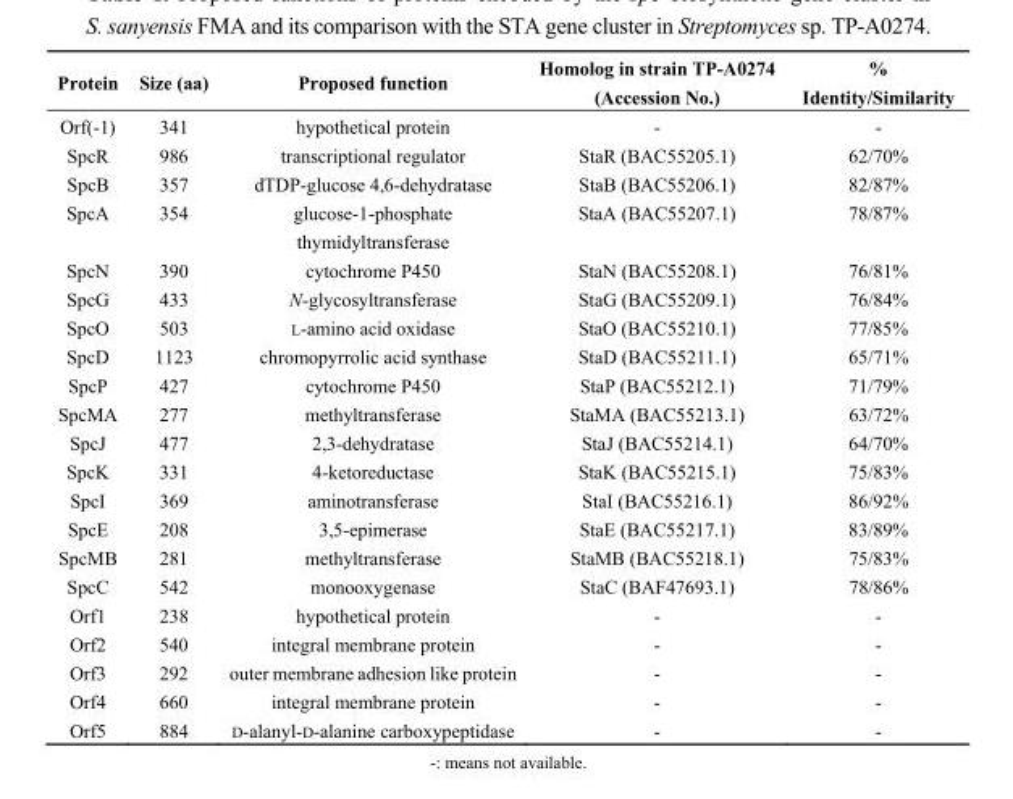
<table><thead><tr><td>Protein</td><td>Size (aa)</td><td>Proposed function</td><td>Homolog in strain TP-A0274 (Accession No.)</td><td>% Identity/Similarity</td></tr></thead><tbody><tr><td>Orf(-1)</td><td>341</td><td>hypothetical protein</td><td>-</td><td>-</td></tr><tr><td>SpcR</td><td>986</td><td>transcriptional regulator</td><td>StaR (BAC55205.1)</td><td>62/70%</td></tr><tr><td>SpcB</td><td>357</td><td>dTDP-glucose 4,6-dehydratase</td><td>StaB (BAC55206.1)</td><td>82/87%</td></tr><tr><td>SpcA</td><td>354</td><td>glucose-1-phosphate thymidyltransferase</td><td>StaA (BAC55207.1)</td><td>78/87%</td></tr><tr><td>SpcN</td><td>390</td><td>cytochrome P450</td><td>StaN (BAC55208.1)</td><td>76/81%</td></tr><tr><td>SpcG</td><td>433</td><td>N-glycosyltransferase</td><td>StaG (BAC55209.1)</td><td>76/84%</td></tr><tr><td>SpcO</td><td>503</td><td>L-amino acid oxidase</td><td>StaO (BAC55210.1)</td><td>77/85%</td></tr><tr><td>SpcD</td><td>1123</td><td>chromopyrrolic acid synthase</td><td>StaD (BAC55211.1)</td><td>65/71%</td></tr><tr><td>SpcP</td><td>427</td><td>cytochrome P450</td><td>StaP (BAC55212.1)</td><td>71/79%</td></tr><tr><td>SpcMA</td><td>277</td><td>methyltransferase</td><td>StaMA (BAC55213.1)</td><td>63/72%</td></tr><tr><td>SpcJ</td><td>477</td><td>2,3-dehydratase</td><td>StaJ (BAC55214.1)</td><td>64/70%</td></tr><tr><td>SpcK</td><td>331</td><td>4-ketoreductase</td><td>StaK (BAC55215.1)</td><td>75/83%</td></tr><tr><td>SpcI</td><td>369</td><td>aminotransferase</td><td>StaI (BAC55216.1)</td><td>86/92%</td></tr><tr><td>SpcE</td><td>208</td><td>3,5-epimerase</td><td>StaE (BAC55217.1)</td><td>83/89%</td></tr><tr><td>SpcMB</td><td>281</td><td>methyltransferase</td><td>StaMB (BAC55218.1)</td><td>75/83%</td></tr><tr><td>SpcC</td><td>542</td><td>monooxygenase</td><td>StaC (BAF47693.1)</td><td>78/86%</td></tr><tr><td>Orf1</td><td>238</td><td>hypothetical protein</td><td>-</td><td>-</td></tr><tr><td>Orf2</td><td>540</td><td>integral membrane protein</td><td>-</td><td>-</td></tr><tr><td>Orf3</td><td>292</td><td>outer membrane adhesion like protein</td><td>-</td><td>-</td></tr><tr><td>Orf4</td><td>660</td><td>integral membrane protein</td><td>-</td><td>-</td></tr><tr><td>Orf5</td><td>884</td><td>D-alanyl-D-alanine carboxypeptidase</td><td>-</td><td>-</td></tr></tbody></table>